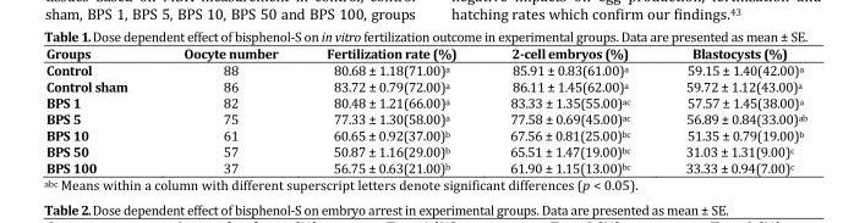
<table><thead><tr><td>Groups</td><td>Oocyte number</td><td>Fertilization rate (%)</td><td>2-cell embryos (%)</td><td>Blastocysts (%)</td></tr></thead><tbody><tr><td>Control</td><td>88</td><td>80.68 ± 1.18(71.00)<sup>a</sup></td><td>85.91 ± 0.83(61.00)<sup>a</sup></td><td>59.15 ± 1.40(42.00)<sup>a</sup></td></tr><tr><td>Control sham</td><td>86</td><td>83.72 ± 0.79(72.00)<sup>a</sup></td><td>86.11 ± 1.45(62.00)<sup>a</sup></td><td>59.72 ± 1.12(43.00)<sup>a</sup></td></tr><tr><td>BPS 1</td><td>82</td><td>80.48 ± 1.21(66.00)<sup>a</sup></td><td>83.33 ± 1.35(55.00)<sup>ac</sup></td><td>57.57 ± 1.45(38.00)<sup>a</sup></td></tr><tr><td>BPS 5</td><td>75</td><td>77.33 ± 1.30(58.00)<sup>a</sup></td><td>77.58 ± 0.69(45.00)<sup>ac</sup></td><td>56.89 ± 0.84(33.00)<sup>ab</sup></td></tr><tr><td>BPS 10</td><td>61</td><td>60.65 ± 0.92(37.00)<sup>b</sup></td><td>67.56 ± 0.81(25.00)bc</td><td>51.35 ± 0.79(19.00)<sup>b</sup></td></tr><tr><td>BPS 50</td><td>57</td><td>50.87 ± 1.16(29.00)<sup>b</sup></td><td>65.51 ± 1.47(19.00)bc</td><td>31.03 ± 1.31(9.00)<sup>c</sup></td></tr><tr><td>BPS 100</td><td>37</td><td>56.75 ± 0.63(21.00)<sup>b</sup></td><td>61.90 ± 1.15(13.00)bc</td><td>33.33 ± 0.94(7.00)<sup>c</sup></td></tr></tbody></table>